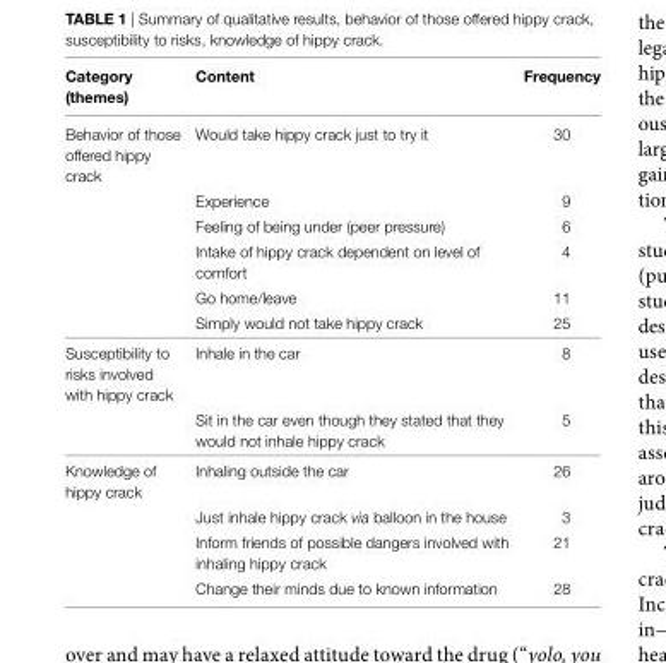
<table><thead><tr><td>category (themes)</td><td>content</td><td>Frequency</td></tr></thead><tbody><tr><td rowspan="6">Behavior of those offered hippy crack</td><td>Would take hippy crack just to try it</td><td>30</td></tr><tr><td>Experience</td><td>9</td></tr><tr><td>Feeling of being under (peer pressure)</td><td>6</td></tr><tr><td>Intake of hippy crack dependent on level of comfort</td><td>4</td></tr><tr><td>Go home/leave</td><td>11</td></tr><tr><td>Simply would not take hippy crack</td><td>25</td></tr><tr><td rowspan="2">Susceptibility to risks involved with hippy crack</td><td>Inhale in the car</td><td>8</td></tr><tr><td>Sit in the car even though they stated that they would not inhale hippy crack</td><td>5</td></tr><tr><td rowspan="4">Knowledge of hippy crack</td><td>Inhaling outside the car</td><td>26</td></tr><tr><td>Just inhale hippy crack via balloon in the house</td><td>3</td></tr><tr><td>Inform friends of possible dangers involved with inhaling hippy crack</td><td>21</td></tr><tr><td>Change their minds due to known information</td><td>28</td></tr></tbody></table>